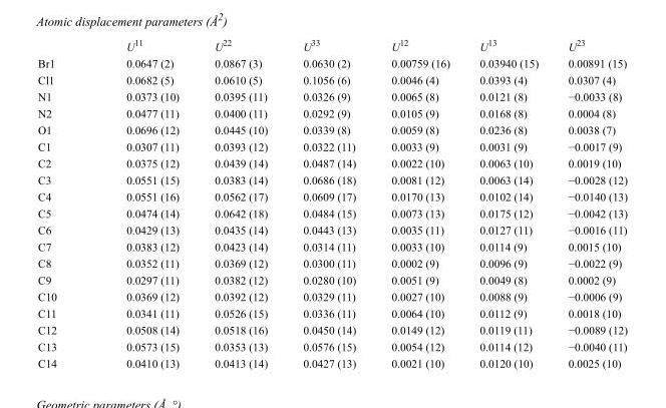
<table><thead><tr><td></td><td>U<sup>11</sup></td><td>U<sup>22</sup></td><td>U<sup>33</sup></td><td>U<sup>12</sup></td><td>U<sup>13</sup></td><td>U<sup>23</sup></td></tr></thead><tbody><tr><td>Br1</td><td>0.0647 (2)</td><td>0.0867 (3)</td><td>0.0630 (2)</td><td>0.00759 (16)</td><td>0.03940 (15)</td><td>0.00891 (15)</td></tr><tr><td>Cl1</td><td>0.0682 (5)</td><td>0.0610 (5)</td><td>0.1056 (6)</td><td>0.0046 (4)</td><td>0.0393 (4)</td><td>0.0307 (4)</td></tr><tr><td>N1</td><td>0.0373 (10)</td><td>0.0395 (11)</td><td>0.0326 (9)</td><td>0.0065 (8)</td><td>0.0121 (8)</td><td>−0.0033 (8)</td></tr><tr><td>N2</td><td>0.0477 (11)</td><td>0.0400 (11)</td><td>0.0292 (9)</td><td>0.0105 (9)</td><td>0.0168 (8)</td><td>0.0004 (8)</td></tr><tr><td>O1</td><td>0.0696 (12)</td><td>0.0445 (10)</td><td>0.0339 (8)</td><td>0.0059 (8)</td><td>0.0236 (8)</td><td>0.0038 (7)</td></tr><tr><td>C1</td><td>0.0307 (11)</td><td>0.0393 (12)</td><td>0.0322 (11)</td><td>0.0033 (9)</td><td>0.0031 (9)</td><td>−0.0017 (9)</td></tr><tr><td>C2</td><td>0.0375 (12)</td><td>0.0439 (14)</td><td>0.0487 (14)</td><td>0.0022 (10)</td><td>0.0063 (10)</td><td>0.0019 (10)</td></tr><tr><td>C3</td><td>0.0551 (15)</td><td>0.0383 (14)</td><td>0.0686 (18)</td><td>0.0081 (12)</td><td>0.0063 (14)</td><td>−0.0028 (12)</td></tr><tr><td>C4</td><td>0.0551 (16)</td><td>0.0562 (17)</td><td>0.0609 (17)</td><td>0.0170 (13)</td><td>0.0102 (14)</td><td>−0.0140 (13)</td></tr><tr><td>C5</td><td>0.0474 (14)</td><td>0.0642 (18)</td><td>0.0484 (15)</td><td>0.0073 (13)</td><td>0.0175 (12)</td><td>−0.0042 (13)</td></tr><tr><td>C6</td><td>0.0429 (13)</td><td>0.0435 (14)</td><td>0.0443 (13)</td><td>0.0035 (11)</td><td>0.0127 (11)</td><td>−0.0016 (11)</td></tr><tr><td>C7</td><td>0.0383 (12)</td><td>0.0423 (14)</td><td>0.0314 (11)</td><td>0.0033 (10)</td><td>0.0114 (9)</td><td>0.0015 (10)</td></tr><tr><td>C8</td><td>0.0352 (11)</td><td>0.0369 (12)</td><td>0.0300 (11)</td><td>0.0002 (9)</td><td>0.0096 (9)</td><td>−0.0022 (9)</td></tr><tr><td>C9</td><td>0.0297 (11)</td><td>0.0382 (12)</td><td>0.0280 (10)</td><td>0.0051 (9)</td><td>0.0049 (8)</td><td>0.0002 (9)</td></tr><tr><td>C10</td><td>0.0369 (12)</td><td>0.0392 (12)</td><td>0.0329 (11)</td><td>0.0027 (10)</td><td>0.0088 (9)</td><td>−0.0006 (9)</td></tr><tr><td>C11</td><td>0.0341 (11)</td><td>0.0526 (15)</td><td>0.0336 (11)</td><td>0.0064 (10)</td><td>0.0112 (9)</td><td>0.0018 (10)</td></tr><tr><td>C12</td><td>0.0508 (14)</td><td>0.0518 (16)</td><td>0.0450 (14)</td><td>0.0149 (12)</td><td>0.0119 (11)</td><td>−0.0089 (12)</td></tr><tr><td>C13</td><td>0.0573 (15)</td><td>0.0353 (13)</td><td>0.0576 (15)</td><td>0.0054 (12)</td><td>0.0114 (12)</td><td>−0.0040 (11)</td></tr><tr><td>C14</td><td>0.0410 (13)</td><td>0.0413 (14)</td><td>0.0427 (13)</td><td>0.0021 (10)</td><td>0.0120 (10)</td><td>0.0025 (10)</td></tr></tbody></table>